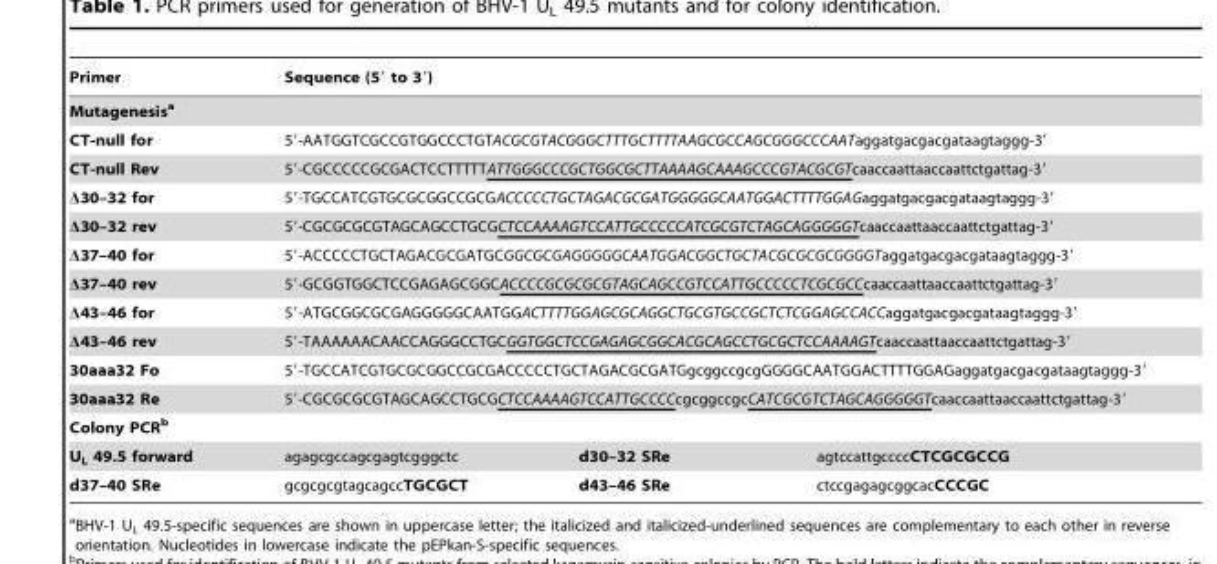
<table><thead><tr><td>Primer</td><td colspan="3">Sequence (5′ to 3′)</td></tr></thead><tbody><tr><td colspan="4">Mutagenesisa</td></tr><tr><td>CT-null for</td><td colspan="3">5′-AATGGTCGCCGTGGCCCTGTACGCGTACGGGCTTTGCTTTTAAGCGCCAGCGGGCCCAATaggatgacgacgataagtaggg-3′</td></tr><tr><td>CT-null Rev</td><td colspan="3">5′-CGCCCCCGCGACTCCTTTTTATTGGGCCCGCTGGCGCTTAAAAGCAAAGCCCGTACGCGTcaaccaattaaccaattctgattag-3′</td></tr><tr><td>Δ30–32 for</td><td colspan="3">5′-TGCCATCGTGCGCGGCCGCGACCCCCTGCTAGACGCGATGGGGGCAATGGACTTTTGGAGaggatgacgacgataagtaggg-3′</td></tr><tr><td>Δ30–32 rev</td><td colspan="3">5′-CGCGCGCGTAGCAGCCTGCGCTCCAAAAGTCCATTGCCCCCATCGCGTCTAGCAGGGGGTcaaccaattaaccaattctgattag-3′</td></tr><tr><td>Δ37–40 for</td><td colspan="3">5′-ACCCCCTGCTAGACGCGATGCGGCGCGAGGGGGCAATGGACGGCTGCTACGCGCGCGGGGTaggatgacgacgataagtaggg-3′</td></tr><tr><td>Δ37–40 rev</td><td colspan="3">5′-GCGGTGGCTCCGAGAGCGGCACCCCGCGCGCGTAGCAGCCGTCCATTGCCCCCTCGCGCCcaaccaattaaccaattctgattag-3′</td></tr><tr><td>Δ43–46 for</td><td colspan="3">5′-ATGCGGCGCGAGGGGGCAATGGACTTTTGGAGCGCAGGCTGCGTGCCGCTCTCGGAGCCACCaggatgacgacgataagtaggg-3′</td></tr><tr><td>Δ43–46 rev</td><td colspan="3">5′-TAAAAAACAACCAGGGCCTGCGGTGGCTCCGAGAGCGGCACGCAGCCTGCGCTCCAAAAGTcaaccaattaaccaattctgattag-3′</td></tr><tr><td>30aaa32 Fo</td><td colspan="3">5′-TGCCATCGTGCGCGGCCGCGACCCCCTGCTAGACGCGATGgcggccgcgGGGGCAATGGACTTTTGGAGaggatgacgacgataagtaggg-3′</td></tr><tr><td>30aaa32 Re</td><td colspan="3">5′-CGCGCGCGTAGCAGCCTGCGCTCCAAAAGTCCATTGCCCCcgcggccgcCATCGCGTCTAGCAGGGGGTcaaccaattaaccaattctgattag-3′</td></tr><tr><td colspan="4">Colony PCRb</td></tr><tr><td>U<sub>L</sub> 49.5 forward</td><td>agagcgccagcgagtcgggctc</td><td>d30–32 SRe</td><td>agtccattgccccCTCGCGCCG</td></tr><tr><td>d37–40 SRe</td><td>gcgcgcgtagcagccTGCGCT</td><td>d43–46 SRe</td><td>ctccgagagcggcacCCCGC</td></tr></tbody></table>